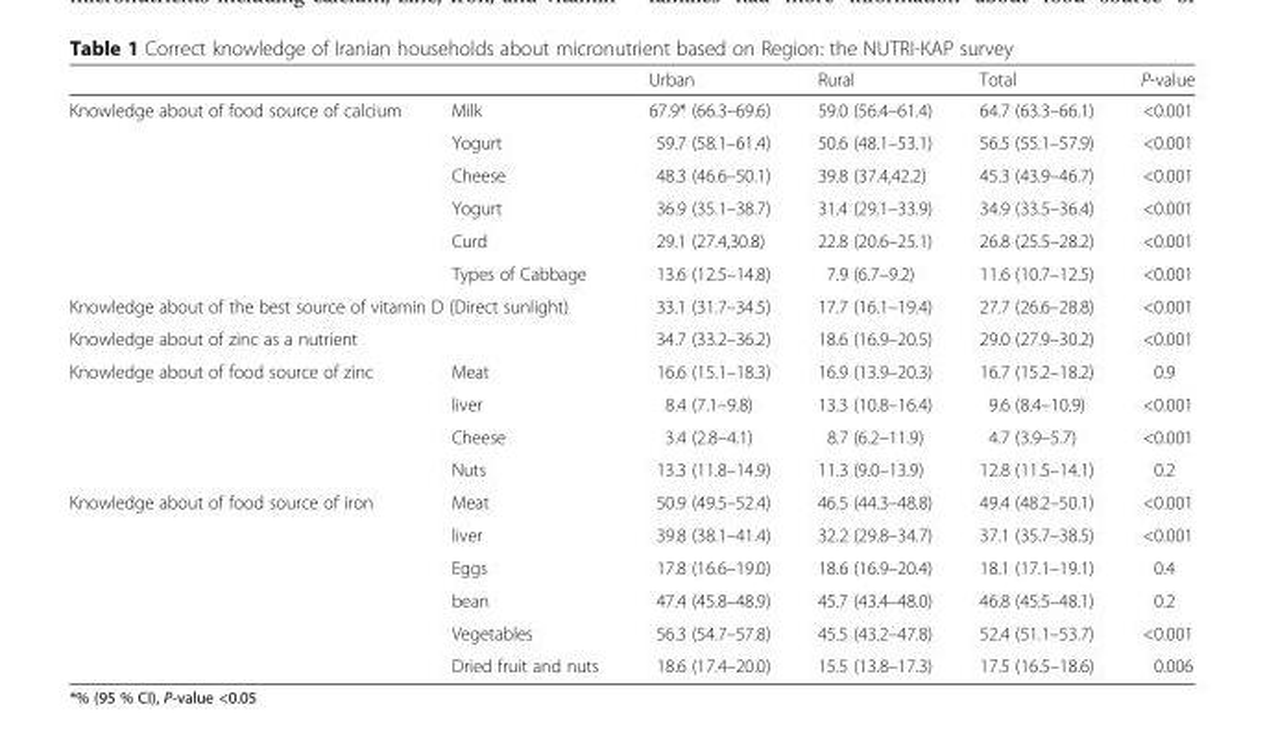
<table><thead><tr><td></td><td></td><td>Urban</td><td>Rural</td><td>Total</td><td>P-value</td></tr></thead><tbody><tr><td rowspan="6">Knowledge about of food source of calcium</td><td>Milk</td><td>67.9* (66.3–69.6)</td><td>59.0 (56.4–61.4)</td><td>64.7 (63.3–66.1)</td><td>&lt;0.001</td></tr><tr><td>Yogurt</td><td>59.7 (58.1–61.4)</td><td>50.6 (48.1–53.1)</td><td>56.5 (55.1–57.9)</td><td>&lt;0.001</td></tr><tr><td>Cheese</td><td>48.3 (46.6–50.1)</td><td>39.8 (37.4,42.2)</td><td>45.3 (43.9–46.7)</td><td>&lt;0.001</td></tr><tr><td>Yogurt</td><td>36.9 (35.1–38.7)</td><td>31.4 (29.1–33.9)</td><td>34.9 (33.5–36.4)</td><td>&lt;0.001</td></tr><tr><td>Curd</td><td>29.1 (27.4,30.8)</td><td>22.8 (20.6–25.1)</td><td>26.8 (25.5–28.2)</td><td>&lt;0.001</td></tr><tr><td>Types of Cabbage</td><td>13.6 (12.5–14.8)</td><td>7.9 (6.7–9.2)</td><td>11.6 (10.7–12.5)</td><td>&lt;0.001</td></tr><tr><td colspan="2">Knowledge about of the best source of vitamin D (Direct sunlight)</td><td>33.1 (31.7–34.5)</td><td>17.7 (16.1–19.4)</td><td>27.7 (26.6–28.8)</td><td>&lt;0.001</td></tr><tr><td colspan="2">Knowledge about of zinc as a nutrient</td><td>34.7 (33.2–36.2)</td><td>18.6 (16.9–20.5)</td><td>29.0 (27.9–30.2)</td><td>&lt;0.001</td></tr><tr><td rowspan="4">Knowledge about of food source of zinc</td><td>Meat</td><td>16.6 (15.1–18.3)</td><td>16.9 (13.9–20.3)</td><td>16.7 (15.2–18.2)</td><td>0.9</td></tr><tr><td>liver</td><td>8.4 (7.1–9.8)</td><td>13.3 (10.8–16.4)</td><td>9.6 (8.4–10.9)</td><td>&lt;0.001</td></tr><tr><td>Cheese</td><td>3.4 (2.8–4.1)</td><td>8.7 (6.2–11.9)</td><td>4.7 (3.9–5.7)</td><td>&lt;0.001</td></tr><tr><td>Nuts</td><td>13.3 (11.8–14.9)</td><td>11.3 (9.0–13.9)</td><td>12.8 (11.5–14.1)</td><td>0.2</td></tr><tr><td rowspan="6">Knowledge about of food source of iron</td><td>Meat</td><td>50.9 (49.5–52.4)</td><td>46.5 (44.3–48.8)</td><td>49.4 (48.2–50.1)</td><td>&lt;0.001</td></tr><tr><td>liver</td><td>39.8 (38.1–41.4)</td><td>32.2 (29.8–34.7)</td><td>37.1 (35.7–38.5)</td><td>&lt;0.001</td></tr><tr><td>Eggs</td><td>17.8 (16.6–19.0)</td><td>18.6 (16.9–20.4)</td><td>18.1 (17.1–19.1)</td><td>0.4</td></tr><tr><td>bean</td><td>47.4 (45.8–48.9)</td><td>45.7 (43.4–48.0)</td><td>46.8 (45.5–48.1)</td><td>0.2</td></tr><tr><td>Vegetables</td><td>56.3 (54.7–57.8)</td><td>45.5 (43.2–47.8)</td><td>52.4 (51.1–53.7)</td><td>&lt;0.001</td></tr><tr><td>Dried fruit and nuts</td><td>18.6 (17.4–20.0)</td><td>15.5 (13.8–17.3)</td><td>17.5 (16.5–18.6)</td><td>0.006</td></tr></tbody></table>